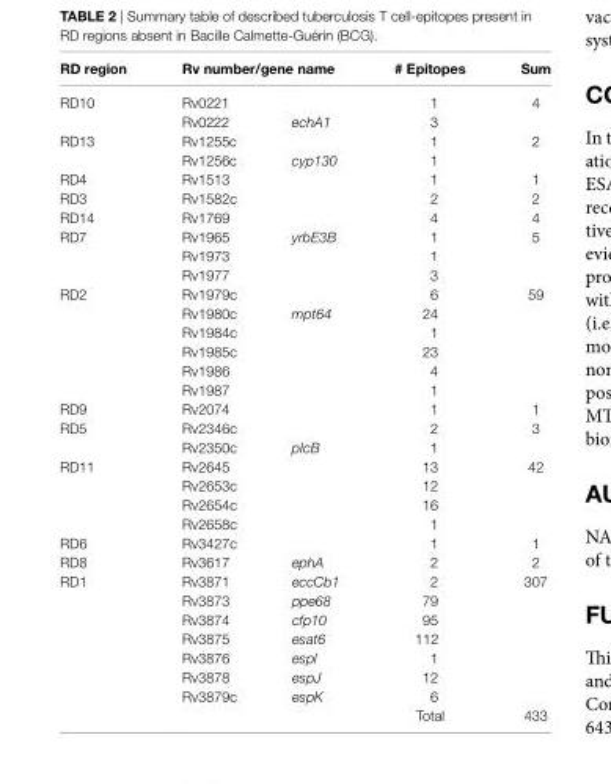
<table><thead><tr><td rowspan="3">RD region RD10</td><td rowspan="2" colspan="2">Rv number/gene name Rv0221</td><td rowspan="3"># epitopes 1 3</td><td rowspan="3">Sum 4</td></tr><tr></tr><tr><td>Rv0222</td><td>echA1</td></tr></thead><tbody><tr><td rowspan="2">RD13</td><td colspan="2">Rv1255c</td><td>1</td><td rowspan="2">2</td></tr><tr><td>Rv1256c</td><td>cyp130</td><td>1</td></tr><tr><td>RD4</td><td colspan="2">Rv1513</td><td>1</td><td>1</td></tr><tr><td>RD3</td><td colspan="2">Rv1582c</td><td>2</td><td>2</td></tr><tr><td>RD14</td><td colspan="2">Rv1769</td><td>4</td><td>4</td></tr><tr><td rowspan="3">RD7</td><td>Rv1965</td><td>yrbE3B</td><td>1</td><td rowspan="3">5</td></tr><tr><td colspan="2">Rv1973</td><td>1</td></tr><tr><td colspan="2">Rv1977</td><td>3</td></tr><tr><td rowspan="6">RD2</td><td colspan="2">Rv1979c</td><td>6</td><td rowspan="6">59</td></tr><tr><td>Rv1980c</td><td>mpt64</td><td>24</td></tr><tr><td colspan="2">Rv1984c</td><td>1</td></tr><tr><td colspan="2">Rv1985c</td><td>23</td></tr><tr><td colspan="2">Rv1986</td><td>4</td></tr><tr><td colspan="2">Rv1987</td><td>1</td></tr><tr><td>RD9</td><td colspan="2">Rv2074</td><td>1</td><td>1</td></tr><tr><td rowspan="2">RD5</td><td colspan="2">Rv2346c</td><td>2</td><td rowspan="2">3</td></tr><tr><td>Rv2350c</td><td>pIcB</td><td>1</td></tr><tr><td rowspan="4">RD11</td><td colspan="2">Rv2645</td><td>13</td><td rowspan="4">42</td></tr><tr><td colspan="2">Rv2653c</td><td>12</td></tr><tr><td colspan="2">Rv2654c</td><td>16</td></tr><tr><td colspan="2">Rv2658c</td><td>1</td></tr><tr><td>RD6</td><td colspan="2">Rv3427c</td><td>1</td><td>1</td></tr><tr><td>RD8</td><td>Rv3617</td><td>ephA</td><td>2</td><td>2</td></tr><tr><td rowspan="8">RD1</td><td>Rv3871</td><td>eccCb1</td><td>2</td><td rowspan="7">307</td></tr><tr><td>Rv3873</td><td>ppe68</td><td>79</td></tr><tr><td>Rv3874</td><td>cfp10</td><td>95</td></tr><tr><td>Rv3875</td><td>esat6</td><td>112</td></tr><tr><td>Rv3876</td><td>espl</td><td>1</td></tr><tr><td>Rv3878</td><td>espJ</td><td>12</td></tr><tr><td>Rv3879c</td><td>espK</td><td>6</td></tr><tr><td></td><td></td><td>Total</td><td>433</td></tr></tbody></table>